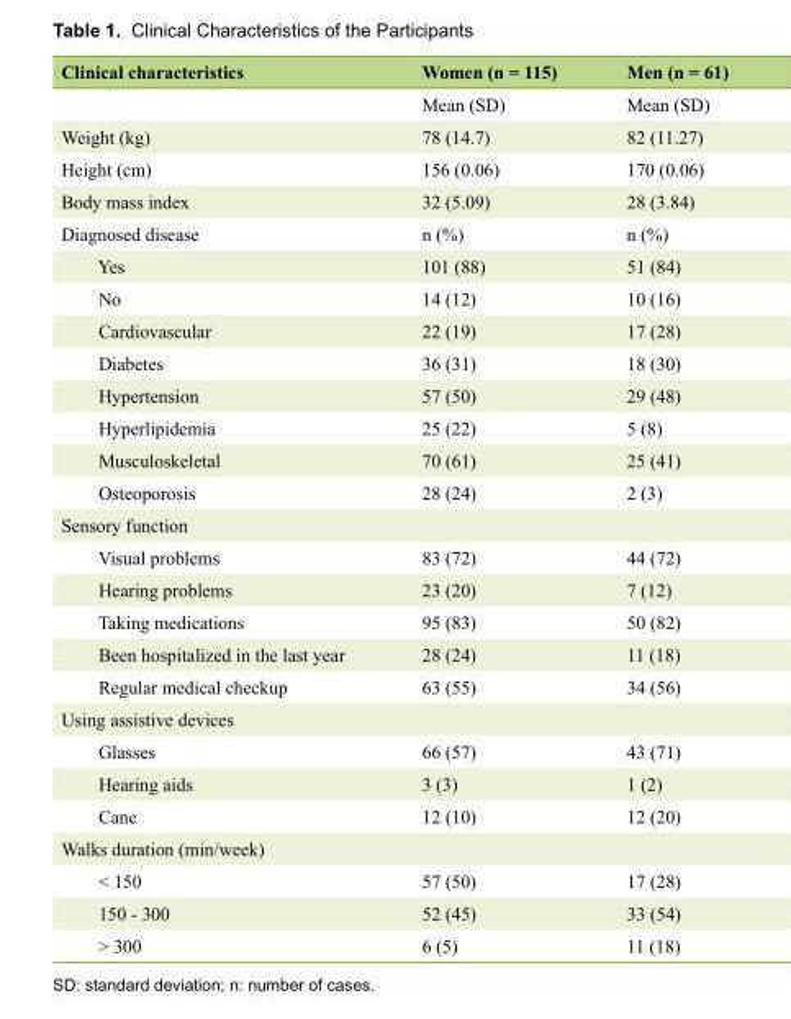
<table><thead><tr><td>Clinical characteristics</td><td>Women (n = 115)</td><td>Men (n = 61)</td></tr></thead><tbody><tr><td></td><td>Mean (SD)</td><td>Mean (SD)</td></tr><tr><td>Weight (kg)</td><td>78 (14.7)</td><td>82 (11.27)</td></tr><tr><td>Height (cm)</td><td>156 (0.06)</td><td>170 (0.06)</td></tr><tr><td>Body mass index</td><td>32 (5.09)</td><td>28 (3.84)</td></tr><tr><td>Diagnosed disease</td><td>n (%)</td><td>n (%)</td></tr><tr><td>Yes</td><td>101 (88)</td><td>51 (84)</td></tr><tr><td>No</td><td>14 (12)</td><td>10 (16)</td></tr><tr><td>Cardiovascular</td><td>22 (19)</td><td>17 (28)</td></tr><tr><td>Diabetes</td><td>36 (31)</td><td>18 (30)</td></tr><tr><td>Hypertension</td><td>57 (50)</td><td>29 (48)</td></tr><tr><td>Hyperlipidemia</td><td>25 (22)</td><td>5 (8)</td></tr><tr><td>Musculoskeletal</td><td>70 (61)</td><td>25 (41)</td></tr><tr><td>Osteoporosis</td><td>28 (24)</td><td>2 (3)</td></tr><tr><td colspan="3">Sensory function</td></tr><tr><td>Visual problems</td><td>83 (72)</td><td>44 (72)</td></tr><tr><td>Hearing problems</td><td>23 (20)</td><td>7 (12)</td></tr><tr><td>Taking medications</td><td>95 (83)</td><td>50 (82)</td></tr><tr><td>Been hospitalized in the last year</td><td>28 (24)</td><td>11 (18)</td></tr><tr><td>Regular medical checkup</td><td>63 (55)</td><td>34 (56)</td></tr><tr><td colspan="3">Using assistive devices</td></tr><tr><td>Glasses</td><td>66 (57)</td><td>43 (71)</td></tr><tr><td>Hearing aids</td><td>3 (3)</td><td>1 (2)</td></tr><tr><td>Cane</td><td>12 (10)</td><td>12 (20)</td></tr><tr><td colspan="3">Walks duration (min/week)</td></tr><tr><td>&lt; 150</td><td>57 (50)</td><td>17 (28)</td></tr><tr><td>150 - 300</td><td>52 (45)</td><td>33 (54)</td></tr><tr><td>&gt; 300</td><td>6 (5)</td><td>11 (18)</td></tr></tbody></table>